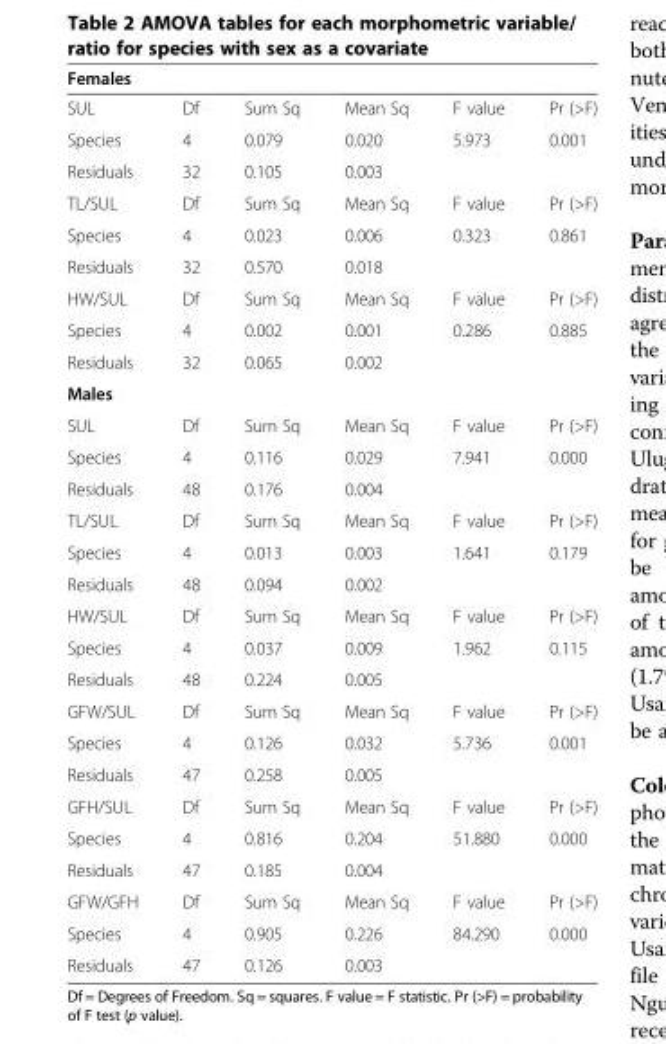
<table><thead><tr><td>Females</td><td></td><td></td><td></td><td></td><td></td></tr></thead><tbody><tr><td>SUL</td><td>Df</td><td>Sum Sq</td><td>Mean Sq</td><td>F value</td><td>Pr (&gt;F)</td></tr><tr><td>Species</td><td>4</td><td>0.079</td><td>0.020</td><td>5.973</td><td>0.001</td></tr><tr><td>Residuals</td><td>32</td><td>0.105</td><td>0.003</td><td></td><td></td></tr><tr><td>TL/SUL</td><td>Df</td><td>Sum Sq</td><td>Mean Sq</td><td>F value</td><td>Pr (&gt;F)</td></tr><tr><td>Species</td><td>4</td><td>0.023</td><td>0.006</td><td>0.323</td><td>0.861</td></tr><tr><td>Residuals</td><td>32</td><td>0.570</td><td>0.018</td><td></td><td></td></tr><tr><td>HW/SUL</td><td>Df</td><td>Sum Sq</td><td>Mean Sq</td><td>F value</td><td>Pr (&gt;F)</td></tr><tr><td>Species</td><td>4</td><td>0.002</td><td>0.001</td><td>0.286</td><td>0.885</td></tr><tr><td>Residuals</td><td>32</td><td>0.065</td><td>0.002</td><td></td><td></td></tr><tr><td colspan="6">Males</td></tr><tr><td>SUL</td><td>Df</td><td>Sum Sq</td><td>Mean Sq</td><td>F value</td><td>Pr (&gt;F)</td></tr><tr><td>Species</td><td>4</td><td>0.116</td><td>0.029</td><td>7.941</td><td>0.000</td></tr><tr><td>Residuals</td><td>48</td><td>0.176</td><td>0.004</td><td></td><td></td></tr><tr><td>TL/SUL</td><td>Df</td><td>Sum Sq</td><td>Mean Sq</td><td>F value</td><td>Pr (&gt;F)</td></tr><tr><td>Species</td><td>4</td><td>0.013</td><td>0.003</td><td>1.641</td><td>0.179</td></tr><tr><td>Residuals</td><td>48</td><td>0.094</td><td>0.002</td><td></td><td></td></tr><tr><td>HW/SUL</td><td>Df</td><td>Sum Sq</td><td>Mean Sq</td><td>F value</td><td>Pr (&gt;F)</td></tr><tr><td>Species</td><td>4</td><td>0.037</td><td>0.009</td><td>1.962</td><td>0.115</td></tr><tr><td>Residuals</td><td>48</td><td>0.224</td><td>0.005</td><td></td><td></td></tr><tr><td>GFW/SUL</td><td>Df</td><td>Sum Sq</td><td>Mean Sq</td><td>F value</td><td>Pr (&gt;F)</td></tr><tr><td>Species</td><td>4</td><td>0.126</td><td>0.032</td><td>5.736</td><td>0.001</td></tr><tr><td>Residuals</td><td>47</td><td>0.258</td><td>0.005</td><td></td><td></td></tr><tr><td>GFH/SUL</td><td>Df</td><td>Sum Sq</td><td>Mean Sq</td><td>F value</td><td>Pr (&gt;F)</td></tr><tr><td>Species</td><td>4</td><td>0.816</td><td>0.204</td><td>51.880</td><td>0.000</td></tr><tr><td>Residuals</td><td>47</td><td>0.185</td><td>0.004</td><td></td><td></td></tr><tr><td>GFW/GFH</td><td>Df</td><td>Sum Sq</td><td>Mean Sq</td><td>F value</td><td>Pr (&gt;F)</td></tr><tr><td>Species</td><td>4</td><td>0.905</td><td>0.226</td><td>84.290</td><td>0.000</td></tr><tr><td>Residuals</td><td>47</td><td>0.126</td><td>0.003</td><td></td><td></td></tr></tbody></table>